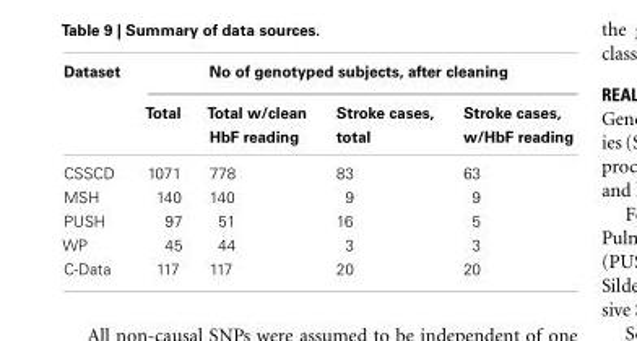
<table><thead><tr><td rowspan="2">Dataset</td><td colspan="4">No of genotyped subjects, after cleaning</td></tr><tr><td>Total</td><td>Total w/clean HbF reading</td><td>Stroke cases, total</td><td>Stroke cases, w/HbF reading</td></tr></thead><tbody><tr><td>CSSCD</td><td>1071</td><td>778</td><td>83</td><td>63</td></tr><tr><td>MSH</td><td>140</td><td>140</td><td>9</td><td>9</td></tr><tr><td>PUSH</td><td>97</td><td>51</td><td>16</td><td>5</td></tr><tr><td>WP</td><td>45</td><td>44</td><td>3</td><td>3</td></tr><tr><td>C-Data</td><td>117</td><td>117</td><td>20</td><td>20</td></tr></tbody></table>